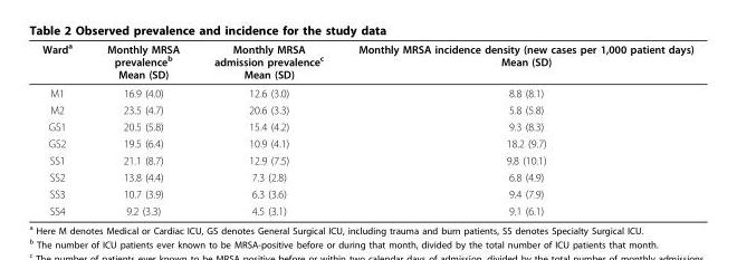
<table><thead><tr><td>Ward<sup>a</sup></td><td>Monthly MRSA prevalence<sup>b</sup> Mean (SD)</td><td>Monthly MRSA admission prevalence<sup>c</sup> Mean (SD)</td><td>Monthly MRSA incidence density (new cases per 1,000 patient days) Mean (SD)</td></tr></thead><tbody><tr><td>M1</td><td>16.9 (4.0)</td><td>12.6 (3.0)</td><td>8.8 (8.1)</td></tr><tr><td>M2</td><td>23.5 (4.7)</td><td>20.6 (3.3)</td><td>5.8 (5.8)</td></tr><tr><td>GS1</td><td>20.5 (5.8)</td><td>15.4 (4.2)</td><td>9.3 (8.3)</td></tr><tr><td>GS2</td><td>19.5 (6.4)</td><td>10.9 (4.1)</td><td>18.2 (9.7)</td></tr><tr><td>SS1</td><td>21.1 (8.7)</td><td>12.9 (7.5)</td><td>9.8 (10.1)</td></tr><tr><td>SS2</td><td>13.8 (4.4)</td><td>7.3 (2.8)</td><td>6.8 (4.9)</td></tr><tr><td>SS3</td><td>10.7 (3.9)</td><td>6.3 (3.6)</td><td>9.4 (7.9)</td></tr><tr><td>SS4</td><td>9.2 (3.3)</td><td>4.5 (3.1)</td><td>9.1 (6.1)</td></tr></tbody></table>